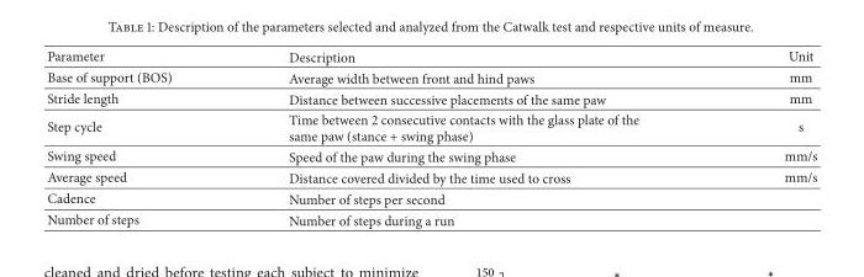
<table><thead><tr><td>Parameter</td><td>Description</td><td>Unit</td></tr></thead><tbody><tr><td>Base of support (BOS)</td><td>Average width between front and hind paws</td><td>mm</td></tr><tr><td>Stride length</td><td>Distance between successive placements of the same paw</td><td>mm</td></tr><tr><td>Step cycle</td><td>Time between 2 consecutive contacts with the glass plate of the same paw (stance + swing phase)</td><td>s</td></tr><tr><td>Swing speed</td><td>Speed of the paw during the swing phase</td><td>mm/s</td></tr><tr><td>Average speed</td><td>Distance covered divided by the time used to cross</td><td>mm/s</td></tr><tr><td>Cadence</td><td>Number of steps per second</td><td></td></tr><tr><td>Number of steps</td><td>Number of steps during a run</td><td></td></tr></tbody></table>